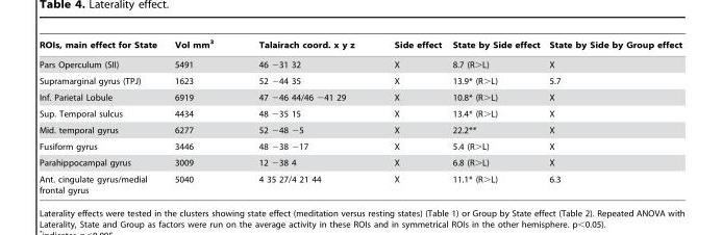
<table><thead><tr><td>ROIs, main effect for State</td><td>Vol mm<sup>3</sup></td><td>Talairach coord. x y z</td><td>Side effect</td><td>State by Side effect</td><td>State by Side by Group effect</td></tr></thead><tbody><tr><td>Pars Operculum (SII)</td><td>5491</td><td>46 −31 32</td><td>X</td><td>8.7 (R&gt;L)</td><td>X</td></tr><tr><td>Supramarginal gyrus (TPJ)</td><td>1623</td><td>52 −44 35</td><td>X</td><td>13.9* (R&gt;L)</td><td>5.7</td></tr><tr><td>Inf. Parietal Lobule</td><td>6919</td><td>47 −46 44/46 −41 29</td><td>X</td><td>10.8* (R&gt;L)</td><td>X</td></tr><tr><td>Sup. Temporal sulcus</td><td>4434</td><td>48 −35 15</td><td>X</td><td>13.4* (R&gt;L)</td><td>X</td></tr><tr><td>Mid. temporal gyrus</td><td>6277</td><td>52 −48 −5</td><td>X</td><td>22.2**</td><td>X</td></tr><tr><td>Fusiform gyrus</td><td>3446</td><td>48 −38 −17</td><td>X</td><td>5.4 (R&gt;L)</td><td>X</td></tr><tr><td>Parahippocampal gyrus</td><td>3009</td><td>12 −38 4</td><td>X</td><td>6.8 (R&gt;L)</td><td>X</td></tr><tr><td>Ant. cingulate gyrus/medial frontal gyrus</td><td>5040</td><td>4 35 27/4 21 44</td><td>X</td><td>11.1* (R&gt;L)</td><td>6.3</td></tr></tbody></table>